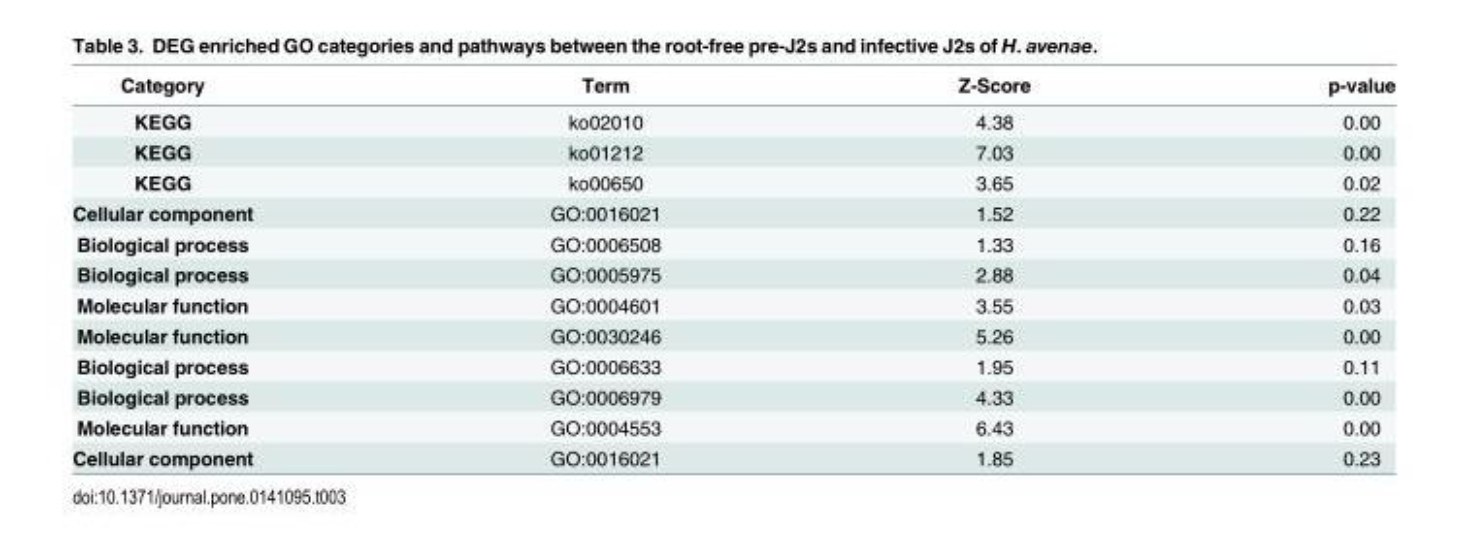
<table><thead><tr><td>Category</td><td>Term</td><td>Z-Score</td><td>p-value</td></tr></thead><tbody><tr><td>KEGG</td><td>ko02010</td><td>4.38</td><td>0.00</td></tr><tr><td>KEGG</td><td>ko01212</td><td>7.03</td><td>0.00</td></tr><tr><td>KEGG</td><td>ko00650</td><td>3.65</td><td>0.02</td></tr><tr><td>Cellular component</td><td>GO:0016021</td><td>1.52</td><td>0.22</td></tr><tr><td>Biological process</td><td>GO:0006508</td><td>1.33</td><td>0.16</td></tr><tr><td>Biological process</td><td>GO:0005975</td><td>2.88</td><td>0.04</td></tr><tr><td>Molecular function</td><td>GO:0004601</td><td>3.55</td><td>0.03</td></tr><tr><td>Molecular function</td><td>GO:0030246</td><td>5.26</td><td>0.00</td></tr><tr><td>Biological process</td><td>GO:0006633</td><td>1.95</td><td>0.11</td></tr><tr><td>Biological process</td><td>GO:0006979</td><td>4.33</td><td>0.00</td></tr><tr><td>Molecular function</td><td>GO:0004553</td><td>6.43</td><td>0.00</td></tr><tr><td>Cellular component</td><td>GO:0016021</td><td>1.85</td><td>0.23</td></tr></tbody></table>